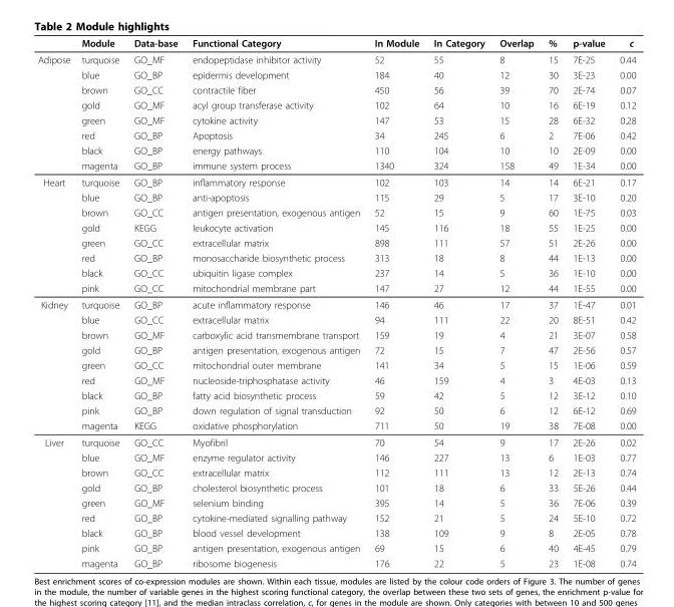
<table><thead><tr><td></td><td>Module</td><td>Data-base</td><td>Functional Category</td><td>In Module</td><td>In Category</td><td>Overlap</td><td>%</td><td>p-value</td><td>c</td></tr></thead><tbody><tr><td rowspan="8">Adipose</td><td>turquoise</td><td>GO_MF</td><td>endopeptidase inhibitor activity</td><td>52</td><td>55</td><td>8</td><td>15</td><td>7E-25</td><td>0.44</td></tr><tr><td>blue</td><td>GO_BP</td><td>epidermis development</td><td>184</td><td>40</td><td>12</td><td>30</td><td>3E-23</td><td>0.00</td></tr><tr><td>brown</td><td>GO_CC</td><td>contractile fiber</td><td>450</td><td>56</td><td>39</td><td>70</td><td>2E-74</td><td>0.07</td></tr><tr><td>gold</td><td>GO_MF</td><td>acyl group transferase activity</td><td>102</td><td>64</td><td>10</td><td>16</td><td>6E-19</td><td>0.12</td></tr><tr><td>green</td><td>GO_MF</td><td>cytokine activity</td><td>147</td><td>53</td><td>15</td><td>28</td><td>6E-32</td><td>0.28</td></tr><tr><td>red</td><td>GO_BP</td><td>Apoptosis</td><td>34</td><td>245</td><td>6</td><td>2</td><td>7E-06</td><td>0.42</td></tr><tr><td>black</td><td>GO_BP</td><td>energy pathways</td><td>110</td><td>104</td><td>10</td><td>10</td><td>2E-09</td><td>0.00</td></tr><tr><td>magenta</td><td>GO_BP</td><td>immune system process</td><td>1340</td><td>324</td><td>158</td><td>49</td><td>1E-34</td><td>0.00</td></tr><tr><td rowspan="8">Heart</td><td>turquoise</td><td>GO_BP</td><td>inflammatory response</td><td>102</td><td>103</td><td>14</td><td>14</td><td>6E-21</td><td>0.17</td></tr><tr><td>blue</td><td>GO_BP</td><td>anti-apoptosis</td><td>115</td><td>29</td><td>5</td><td>17</td><td>3E-10</td><td>0.20</td></tr><tr><td>brown</td><td>GO_CC</td><td>antigen presentation, exogenous antigen</td><td>52</td><td>15</td><td>9</td><td>60</td><td>1E-75</td><td>0.03</td></tr><tr><td>gold</td><td>KEGG</td><td>leukocyte activation</td><td>145</td><td>116</td><td>18</td><td>55</td><td>1E-25</td><td>0.00</td></tr><tr><td>green</td><td>GO_CC</td><td>extracellular matrix</td><td>898</td><td>111</td><td>57</td><td>51</td><td>2E-26</td><td>0.00</td></tr><tr><td>red</td><td>GO_BP</td><td>monosaccharide biosynthetic process</td><td>313</td><td>18</td><td>8</td><td>44</td><td>1E-13</td><td>0.00</td></tr><tr><td>black</td><td>GO_CC</td><td>ubiquitin ligase complex</td><td>237</td><td>14</td><td>5</td><td>36</td><td>1E-10</td><td>0.00</td></tr><tr><td>pink</td><td>GO_CC</td><td>mitochondrial membrane part</td><td>147</td><td>27</td><td>12</td><td>44</td><td>1E-55</td><td>0.00</td></tr><tr><td rowspan="9">Kidney</td><td>turquoise</td><td>GO_BP</td><td>acute inflammatory response</td><td>146</td><td>46</td><td>17</td><td>37</td><td>1E-47</td><td>0.01</td></tr><tr><td>blue</td><td>GO_CC</td><td>extracellular matrix</td><td>94</td><td>111</td><td>22</td><td>20</td><td>8E-51</td><td>0.42</td></tr><tr><td>brown</td><td>GO_MF</td><td>carboxylic acid transmembrane transport</td><td>159</td><td>19</td><td>4</td><td>21</td><td>3E-07</td><td>0.58</td></tr><tr><td>gold</td><td>GO_BP</td><td>antigen presentation, exogenous antigen</td><td>72</td><td>15</td><td>7</td><td>47</td><td>2E-56</td><td>0.57</td></tr><tr><td>green</td><td>GO_CC</td><td>mitochondrial outer membrane</td><td>141</td><td>34</td><td>5</td><td>15</td><td>1E-06</td><td>0.59</td></tr><tr><td>red</td><td>GO_MF</td><td>nucleoside-triphosphatase activity</td><td>46</td><td>159</td><td>4</td><td>3</td><td>4E-03</td><td>0.13</td></tr><tr><td>black</td><td>GO_BP</td><td>fatty acid biosynthetic process</td><td>59</td><td>42</td><td>5</td><td>12</td><td>3E-12</td><td>0.10</td></tr><tr><td>pink</td><td>GO_BP</td><td>down regulation of signal transduction</td><td>92</td><td>50</td><td>6</td><td>12</td><td>6E-12</td><td>0.69</td></tr><tr><td>magenta</td><td>KEGG</td><td>oxidative phosphorylation</td><td>711</td><td>50</td><td>19</td><td>38</td><td>7E-08</td><td>0.00</td></tr><tr><td rowspan="9">Liver</td><td>turquoise</td><td>GO_CC</td><td>Myofibril</td><td>70</td><td>54</td><td>9</td><td>17</td><td>2E-26</td><td>0.02</td></tr><tr><td>blue</td><td>GO_MF</td><td>enzyme regulator activity</td><td>146</td><td>227</td><td>13</td><td>6</td><td>1E-03</td><td>0.77</td></tr><tr><td>brown</td><td>GO_CC</td><td>extracellular matrix</td><td>112</td><td>111</td><td>13</td><td>12</td><td>2E-13</td><td>0.74</td></tr><tr><td>gold</td><td>GO_BP</td><td>cholesterol biosynthetic process</td><td>101</td><td>18</td><td>6</td><td>33</td><td>5E-26</td><td>0.44</td></tr><tr><td>green</td><td>GO_MF</td><td>selenium binding</td><td>395</td><td>14</td><td>5</td><td>36</td><td>7E-06</td><td>0.39</td></tr><tr><td>red</td><td>GO_BP</td><td>cytokine-mediated signalling pathway</td><td>152</td><td>21</td><td>5</td><td>24</td><td>5E-10</td><td>0.72</td></tr><tr><td>black</td><td>GO_BP</td><td>blood vessel development</td><td>138</td><td>109</td><td>9</td><td>8</td><td>2E-05</td><td>0.78</td></tr><tr><td>pink</td><td>GO_BP</td><td>antigen presentation, exogenous antigen</td><td>69</td><td>15</td><td>6</td><td>40</td><td>4E-45</td><td>0.79</td></tr><tr><td>magenta</td><td>GO_BP</td><td>ribosome biogenesis</td><td>176</td><td>22</td><td>5</td><td>23</td><td>1E-08</td><td>0.74</td></tr></tbody></table>